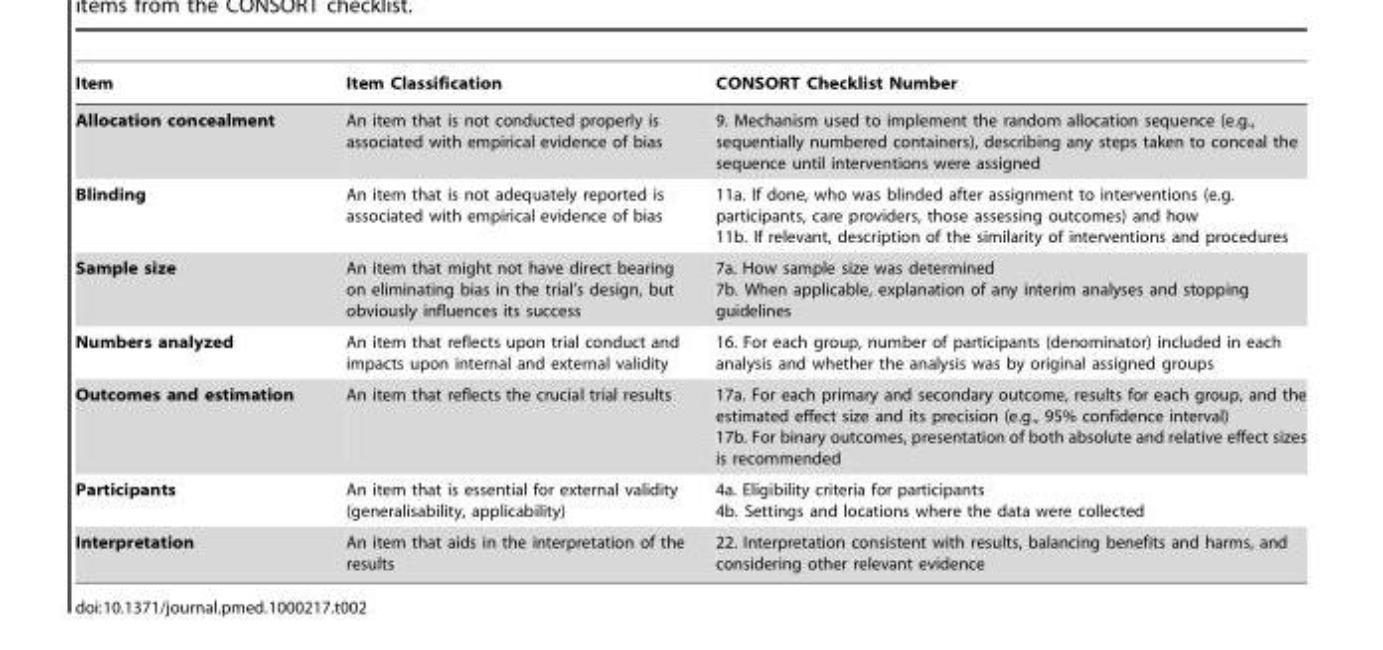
<table><thead><tr><td>Item</td><td>Item Classification</td><td>CONSORT Checklist Number</td></tr></thead><tbody><tr><td>Allocation concealment</td><td>An item that is not conducted properly is associated with empirical evidence of bias</td><td>9. Mechanism used to implement the random allocation sequence (e.g., sequentially numbered containers), describing any steps taken to conceal the sequence until interventions were assigned</td></tr><tr><td>Blinding</td><td>An item that is not adequately reported is associated with empirical evidence of bias</td><td>11a. If done, who was blinded after assignment to interventions (e.g. participants, care providers, those assessing outcomes) and how 11b. If relevant, description of the similarity of interventions and procedures</td></tr><tr><td>Sample size</td><td>An item that might not have direct bearing on eliminating bias in the trial’s design, but obviously influences its success</td><td>7a. How sample size was determined 7b. When applicable, explanation of any interim analyses and stopping guidelines</td></tr><tr><td>Numbers analyzed</td><td>An item that reflects upon trial conduct and impacts upon internal and external validity</td><td>16. For each group, number of participants (denominator) included in each analysis and whether the analysis was by original assigned groups</td></tr><tr><td>Outcomes and estimation</td><td>An item that reflects the crucial trial results</td><td>17a. For each primary and secondary outcome, results for each group, and the estimated effect size and its precision (e.g., 95% confidence interval) 17b. For binary outcomes, presentation of both absolute and relative effect sizes is recommended</td></tr><tr><td>Participants</td><td>An item that is essential for external validity (generalisability, applicability)</td><td>4a. Eligibility criteria for participants 4b. Settings and locations where the data were collected</td></tr><tr><td>Interpretation</td><td>An item that aids in the interpretation of the results</td><td>22. Interpretation consistent with results, balancing benefits and harms, and considering other relevant evidence</td></tr></tbody></table>